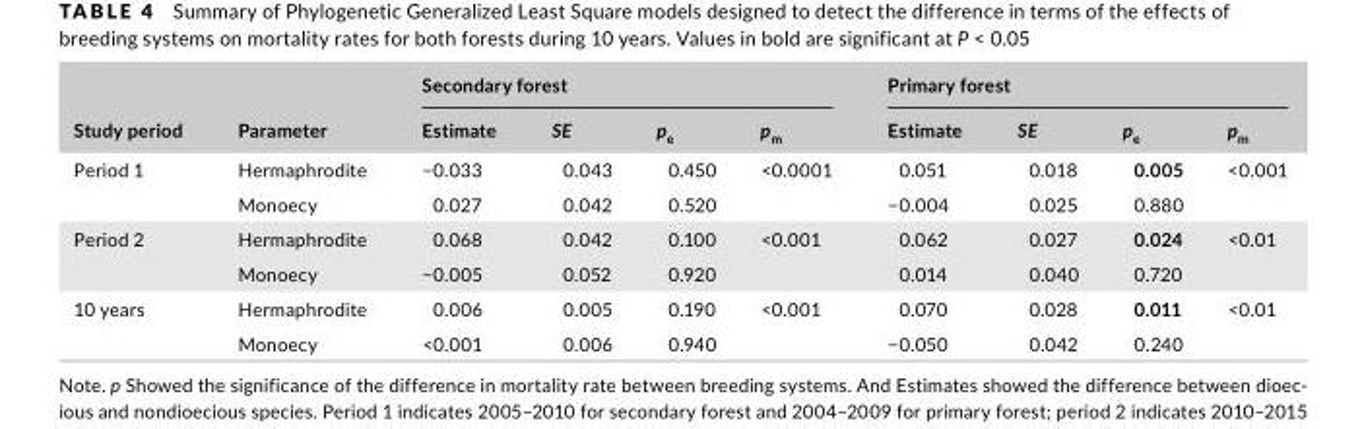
<table><thead><tr><td rowspan="2">Study period</td><td rowspan="2">Parameter</td><td colspan="4">Secondary forest</td><td colspan="4">Primary forest</td></tr><tr><td>Estimate</td><td>SE</td><td>p<sub>e</sub></td><td>p<sub>m</sub></td><td>Estimate</td><td>SE</td><td>p<sub>e</sub></td><td>p<sub>m</sub></td></tr></thead><tbody><tr><td rowspan="2">Period 1</td><td>Hermaphrodite</td><td>−0.033</td><td>0.043</td><td>0.450</td><td rowspan="2">&lt;0.0001</td><td>0.051</td><td>0.018</td><td>0.005</td><td rowspan="2">&lt;0.001</td></tr><tr><td>Monoecy</td><td>0.027</td><td>0.042</td><td>0.520</td><td>−0.004</td><td>0.025</td><td>0.880</td></tr><tr><td rowspan="2">Period 2</td><td>Hermaphrodite</td><td>0.068</td><td>0.042</td><td>0.100</td><td rowspan="2">&lt;0.001</td><td>0.062</td><td>0.027</td><td>0.024</td><td rowspan="2">&lt;0.01</td></tr><tr><td>Monoecy</td><td>−0.005</td><td>0.052</td><td>0.920</td><td>0.014</td><td>0.040</td><td>0.720</td></tr><tr><td rowspan="2">10 years</td><td>Hermaphrodite</td><td>0.006</td><td>0.005</td><td>0.190</td><td rowspan="2">&lt;0.001</td><td>0.070</td><td>0.028</td><td>0.011</td><td rowspan="2">&lt;0.01</td></tr><tr><td>Monoecy</td><td>&lt;0.001</td><td>0.006</td><td>0.940</td><td>−0.050</td><td>0.042</td><td>0.240</td></tr></tbody></table>